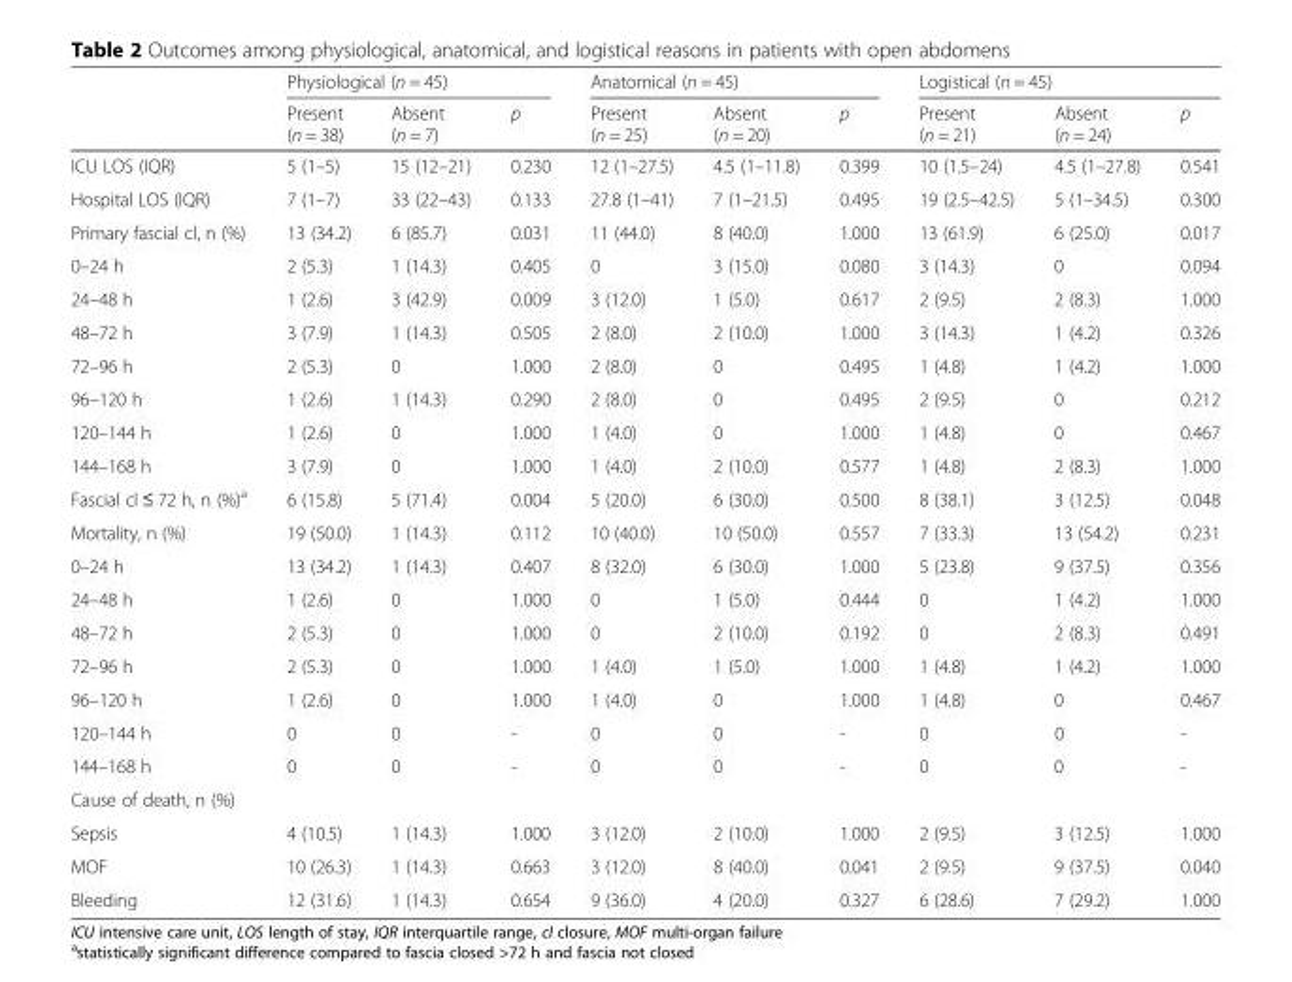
<table><thead><tr><td rowspan="2"></td><td colspan="3">Physiological (n = 45)</td><td colspan="3">Anatomical (n = 45)</td><td colspan="3">Logistical (n = 45)</td></tr><tr><td>Present (n = 38)</td><td>Absent (n = 7)</td><td>p</td><td>Present (n = 25)</td><td>Absent (n = 20)</td><td>p</td><td>Present (n = 21)</td><td>Absent (n = 24)</td><td>p</td></tr></thead><tbody><tr><td>ICU LOS (IQR)</td><td>5 (1–5)</td><td>15 (12–21)</td><td>0.230</td><td>12 (1–27.5)</td><td>4.5 (1–11.8)</td><td>0.399</td><td>10 (1.5–24)</td><td>4.5 (1–27.8)</td><td>0.541</td></tr><tr><td>Hospital LOS (IQR)</td><td>7 (1–7)</td><td>33 (22–43)</td><td>0.133</td><td>27.8 (1–41)</td><td>7 (1–21.5)</td><td>0.495</td><td>19 (2.5–42.5)</td><td>5 (1–34.5)</td><td>0.300</td></tr><tr><td>Primary fascial cl, n (%)</td><td>13 (34.2)</td><td>6 (85.7)</td><td>0.031</td><td>11 (44.0)</td><td>8 (40.0)</td><td>1.000</td><td>13 (61.9)</td><td>6 (25.0)</td><td>0.017</td></tr><tr><td>0–24 h</td><td>2 (5.3)</td><td>1 (14.3)</td><td>0.405</td><td>0</td><td>3 (15.0)</td><td>0.080</td><td>3 (14.3)</td><td>0</td><td>0.094</td></tr><tr><td>24–48 h</td><td>1 (2.6)</td><td>3 (42.9)</td><td>0.009</td><td>3 (12.0)</td><td>1 (5.0)</td><td>0.617</td><td>2 (9.5)</td><td>2 (8.3)</td><td>1.000</td></tr><tr><td>48–72 h</td><td>3 (7.9)</td><td>1 (14.3)</td><td>0.505</td><td>2 (8.0)</td><td>2 (10.0)</td><td>1.000</td><td>3 (14.3)</td><td>1 (4.2)</td><td>0.326</td></tr><tr><td>72–96 h</td><td>2 (5.3)</td><td>0</td><td>1.000</td><td>2 (8.0)</td><td>0</td><td>0.495</td><td>1 (4.8)</td><td>1 (4.2)</td><td>1.000</td></tr><tr><td>96–120 h</td><td>1 (2.6)</td><td>1 (14.3)</td><td>0.290</td><td>2 (8.0)</td><td>0</td><td>0.495</td><td>2 (9.5)</td><td>0</td><td>0.212</td></tr><tr><td>120–144 h</td><td>1 (2.6)</td><td>0</td><td>1.000</td><td>1 (4.0)</td><td>0</td><td>1.000</td><td>1 (4.8)</td><td>0</td><td>0.467</td></tr><tr><td>144–168 h</td><td>3 (7.9)</td><td>0</td><td>1.000</td><td>1 (4.0)</td><td>2 (10.0)</td><td>0.577</td><td>1 (4.8)</td><td>2 (8.3)</td><td>1.000</td></tr><tr><td>Fascial cl ≤ 72 h, n (%)<sup>a</sup></td><td>6 (15.8)</td><td>5 (71.4)</td><td>0.004</td><td>5 (20.0)</td><td>6 (30.0)</td><td>0.500</td><td>8 (38.1)</td><td>3 (12.5)</td><td>0.048</td></tr><tr><td>Mortality, n (%)</td><td>19 (50.0)</td><td>1 (14.3)</td><td>0.112</td><td>10 (40.0)</td><td>10 (50.0)</td><td>0.557</td><td>7 (33.3)</td><td>13 (54.2)</td><td>0.231</td></tr><tr><td>0–24 h</td><td>13 (34.2)</td><td>1 (14.3)</td><td>0.407</td><td>8 (32.0)</td><td>6 (30.0)</td><td>1.000</td><td>5 (23.8)</td><td>9 (37.5)</td><td>0.356</td></tr><tr><td>24–48 h</td><td>1 (2.6)</td><td>0</td><td>1.000</td><td>0</td><td>1 (5.0)</td><td>0.444</td><td>0</td><td>1 (4.2)</td><td>1.000</td></tr><tr><td>48–72 h</td><td>2 (5.3)</td><td>0</td><td>1.000</td><td>0</td><td>2 (10.0)</td><td>0.192</td><td>0</td><td>2 (8.3)</td><td>0.491</td></tr><tr><td>72–96 h</td><td>2 (5.3)</td><td>0</td><td>1.000</td><td>1 (4.0)</td><td>1 (5.0)</td><td>1.000</td><td>1 (4.8)</td><td>1 (4.2)</td><td>1.000</td></tr><tr><td>96–120 h</td><td>1 (2.6)</td><td>0</td><td>1.000</td><td>1 (4.0)</td><td>0</td><td>1.000</td><td>1 (4.8)</td><td>0</td><td>0.467</td></tr><tr><td>120–144 h</td><td>0</td><td>0</td><td>-</td><td>0</td><td>0</td><td>-</td><td>0</td><td>0</td><td>-</td></tr><tr><td>144–168 h</td><td>0</td><td>0</td><td>-</td><td>0</td><td>0</td><td>-</td><td>0</td><td>0</td><td>-</td></tr><tr><td colspan="10">Cause of death, n (%)</td></tr><tr><td>Sepsis</td><td>4 (10.5)</td><td>1 (14.3)</td><td>1.000</td><td>3 (12.0)</td><td>2 (10.0)</td><td>1.000</td><td>2 (9.5)</td><td>3 (12.5)</td><td>1.000</td></tr><tr><td>MOF</td><td>10 (26.3)</td><td>1 (14.3)</td><td>0.663</td><td>3 (12.0)</td><td>8 (40.0)</td><td>0.041</td><td>2 (9.5)</td><td>9 (37.5)</td><td>0.040</td></tr><tr><td>Bleeding</td><td>12 (31.6)</td><td>1 (14.3)</td><td>0.654</td><td>9 (36.0)</td><td>4 (20.0)</td><td>0.327</td><td>6 (28.6)</td><td>7 (29.2)</td><td>1.000</td></tr></tbody></table>